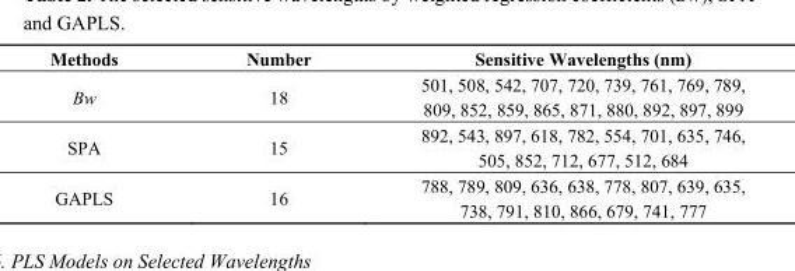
<table><thead><tr><td>Methods</td><td>Number</td><td>Sensitive Wavelengths (nm)</td></tr></thead><tbody><tr><td>Bw</td><td>18</td><td>501, 508, 542, 707, 720, 739, 761, 769, 789, 809, 852, 859, 865, 871, 880, 892, 897, 899</td></tr><tr><td>SPA</td><td>15</td><td>892, 543, 897, 618, 782, 554, 701, 635, 746, 505, 852, 712, 677, 512, 684</td></tr><tr><td>GAPLS</td><td>16</td><td>788, 789, 809, 636, 638, 778, 807, 639, 635, 738, 791, 810, 866, 679, 741, 777</td></tr></tbody></table>